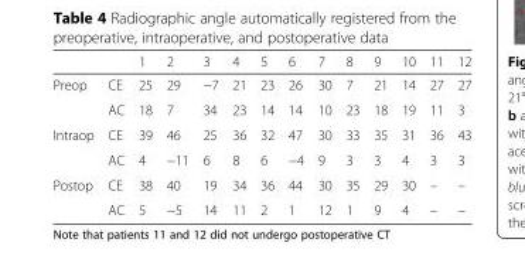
<table><thead><tr><td></td><td></td><td>1</td><td>2</td><td>3</td><td>4</td><td>5</td><td>6</td><td>7</td><td>8</td><td>9</td><td>10</td><td>11</td><td>12</td></tr></thead><tbody><tr><td rowspan="2">Preop</td><td>CE</td><td>25</td><td>29</td><td>−7</td><td>21</td><td>23</td><td>26</td><td>30</td><td>7</td><td>21</td><td>14</td><td>27</td><td>27</td></tr><tr><td>AC</td><td>18</td><td>7</td><td>34</td><td>23</td><td>14</td><td>14</td><td>10</td><td>23</td><td>18</td><td>19</td><td>11</td><td>3</td></tr><tr><td rowspan="2">Intraop</td><td>CE</td><td>39</td><td>46</td><td>25</td><td>36</td><td>32</td><td>47</td><td>30</td><td>33</td><td>35</td><td>31</td><td>36</td><td>43</td></tr><tr><td>AC</td><td>4</td><td>−11</td><td>6</td><td>8</td><td>6</td><td>−4</td><td>9</td><td>3</td><td>3</td><td>4</td><td>3</td><td>3</td></tr><tr><td rowspan="2">Postop</td><td>CE</td><td>38</td><td>40</td><td>19</td><td>34</td><td>36</td><td>44</td><td>30</td><td>35</td><td>29</td><td>30</td><td>–</td><td>–</td></tr><tr><td>AC</td><td>5</td><td>−5</td><td>14</td><td>11</td><td>2</td><td>1</td><td>12</td><td>1</td><td>9</td><td>4</td><td>–</td><td>–</td></tr></tbody></table>